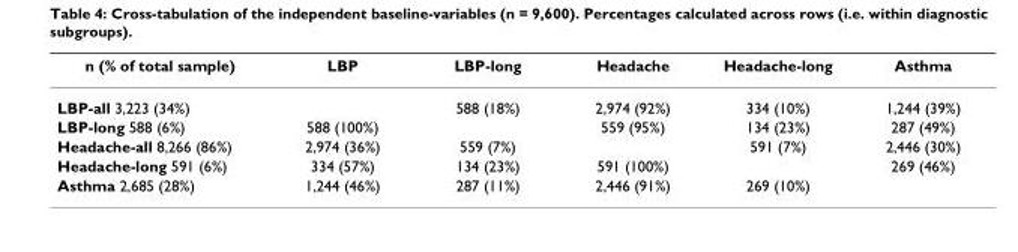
<table><thead><tr><td>n (% of total sample)</td><td>LBP</td><td>LBP-long</td><td>Headache</td><td>Headache-long</td><td>Asthma</td></tr></thead><tbody><tr><td>LBP-all 3,223 (34%)</td><td></td><td>588 (18%)</td><td>2,974 (92%)</td><td>334 (10%)</td><td>1,244 (39%)</td></tr><tr><td>LBP-long 588 (6%)</td><td>588 (100%)</td><td></td><td>559 (95%)</td><td>134 (23%)</td><td>287 (49%)</td></tr><tr><td>Headache-all 8,266 (86%)</td><td>2,974 (36%)</td><td>559 (7%)</td><td></td><td>591 (7%)</td><td>2,446 (30%)</td></tr><tr><td>Headache-long 591 (6%)</td><td>334 (57%)</td><td>134 (23%)</td><td>591 (100%)</td><td></td><td>269 (46%)</td></tr><tr><td>Asthma 2,685 (28%)</td><td>1,244 (46%)</td><td>287 (11%)</td><td>2,446 (91%)</td><td>269 (10%)</td><td></td></tr></tbody></table>